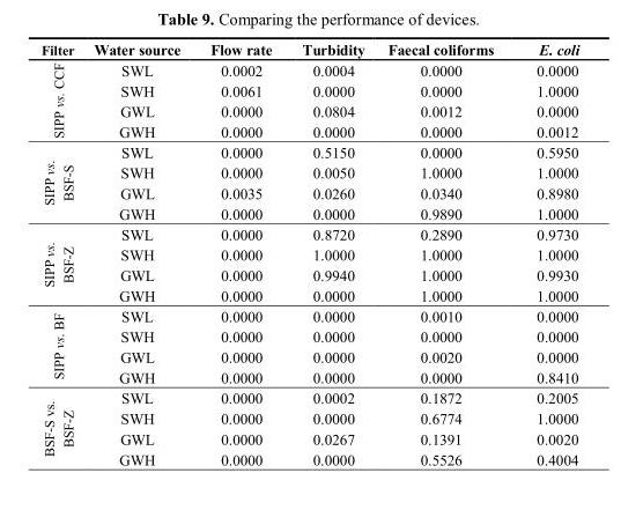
<table><thead><tr><td>Filter</td><td>Water source</td><td>Flow rate</td><td>Turbidity</td><td>Faecal coliforms</td><td>E. coli</td></tr></thead><tbody><tr><td rowspan="4">SIPP vs. CCF</td><td>SWL</td><td>0.0002</td><td>0.0004</td><td>0.0000</td><td>0.0000</td></tr><tr><td>SWH</td><td>0.0061</td><td>0.0000</td><td>0.0000</td><td>1.0000</td></tr><tr><td>GWL</td><td>0.0000</td><td>0.0804</td><td>0.0012</td><td>0.0000</td></tr><tr><td>GWH</td><td>0.0000</td><td>0.0000</td><td>0.0000</td><td>0.0012</td></tr><tr><td rowspan="4">SIPP vs. BSF-S</td><td>SWL</td><td>0.0000</td><td>0.5150</td><td>0.0000</td><td>0.5950</td></tr><tr><td>SWH</td><td>0.0000</td><td>0.0050</td><td>1.0000</td><td>1.0000</td></tr><tr><td>GWL</td><td>0.0035</td><td>0.0260</td><td>0.0340</td><td>0.8980</td></tr><tr><td>GWH</td><td>0.0000</td><td>0.0000</td><td>0.9890</td><td>1.0000</td></tr><tr><td rowspan="4">SIPP vs. BSF-Z</td><td>SWL</td><td>0.0000</td><td>0.8720</td><td>0.2890</td><td>0.9730</td></tr><tr><td>SWH</td><td>0.0000</td><td>1.0000</td><td>1.0000</td><td>1.0000</td></tr><tr><td>GWL</td><td>0.0000</td><td>0.9940</td><td>1.0000</td><td>0.9930</td></tr><tr><td>GWH</td><td>0.0000</td><td>0.0000</td><td>1.0000</td><td>1.0000</td></tr><tr><td rowspan="4">SIPP vs. BF</td><td>SWL</td><td>0.0000</td><td>0.0000</td><td>0.0010</td><td>0.0000</td></tr><tr><td>SWH</td><td>0.0000</td><td>0.0000</td><td>0.0000</td><td>0.0000</td></tr><tr><td>GWL</td><td>0.0000</td><td>0.0000</td><td>0.0020</td><td>0.0000</td></tr><tr><td>GWH</td><td>0.0000</td><td>0.0000</td><td>0.0000</td><td>0.8410</td></tr><tr><td rowspan="4">BSF-S vs. BSF-Z</td><td>SWL</td><td>0.0000</td><td>0.0002</td><td>0.1872</td><td>0.2005</td></tr><tr><td>SWH</td><td>0.0000</td><td>0.0000</td><td>0.6774</td><td>1.0000</td></tr><tr><td>GWL</td><td>0.0000</td><td>0.0267</td><td>0.1391</td><td>0.0020</td></tr><tr><td>GWH</td><td>0.0000</td><td>0.0000</td><td>0.5526</td><td>0.4004</td></tr></tbody></table>